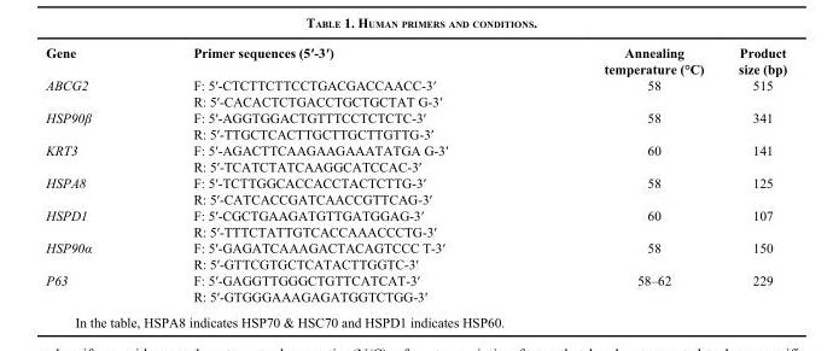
<table><thead><tr><td>Gene</td><td>Primer sequences (5′-3′)</td><td>Annealing temperature (°C)</td><td>Product size (bp)</td></tr></thead><tbody><tr><td rowspan="2">ABCG2</td><td>F: 5′-CTCTTCTTCCTGACGACCAACC-3′</td><td>58</td><td>515</td></tr><tr><td>R: 5′-CACACTCTGACCTGCTGCTAT G-3′</td><td></td><td></td></tr><tr><td rowspan="2">HSP90β</td><td>F: 5′-AGGTGGACTGTTTCCTCTCTC-3′</td><td>58</td><td>341</td></tr><tr><td>R: 5′-TTGCTCACTTGCTTGCTTGTTG-3′</td><td></td><td></td></tr><tr><td rowspan="2">KRT3</td><td>F: 5′-AGACTTCAAGAAGAAATATGA G-3′</td><td>60</td><td>141</td></tr><tr><td>R: 5′-TCATCTATCAAGGCATCCAC-3′</td><td></td><td></td></tr><tr><td rowspan="2">HSPA8</td><td>F: 5′-TCTTGGCACCACCTACTCTTG-3′</td><td>58</td><td>125</td></tr><tr><td>R: 5′-CATCACCGATCAACCGTTCAG-3′</td><td></td><td></td></tr><tr><td rowspan="2">HSPD1</td><td>F: 5′-CGCTGAAGATGTTGATGGAG-3′</td><td>60</td><td>107</td></tr><tr><td>R: 5′-TTTCTATTGTCACCAAACCCTG-3′</td><td></td><td></td></tr><tr><td rowspan="2">HSP90α</td><td>F: 5′-GAGATCAAAGACTACAGTCCC T-3′</td><td>58</td><td>150</td></tr><tr><td>R: 5′-GTTCGTGCTCATACTTGGTC-3′</td><td></td><td></td></tr><tr><td rowspan="2">P63</td><td>F: 5′-GAGGTTGGGCTGTTCATCAT-3′</td><td>58–62</td><td>229</td></tr><tr><td>R: 5′-GTGGGAAAGAGATGGTCTGG-3′</td><td></td><td></td></tr></tbody></table>